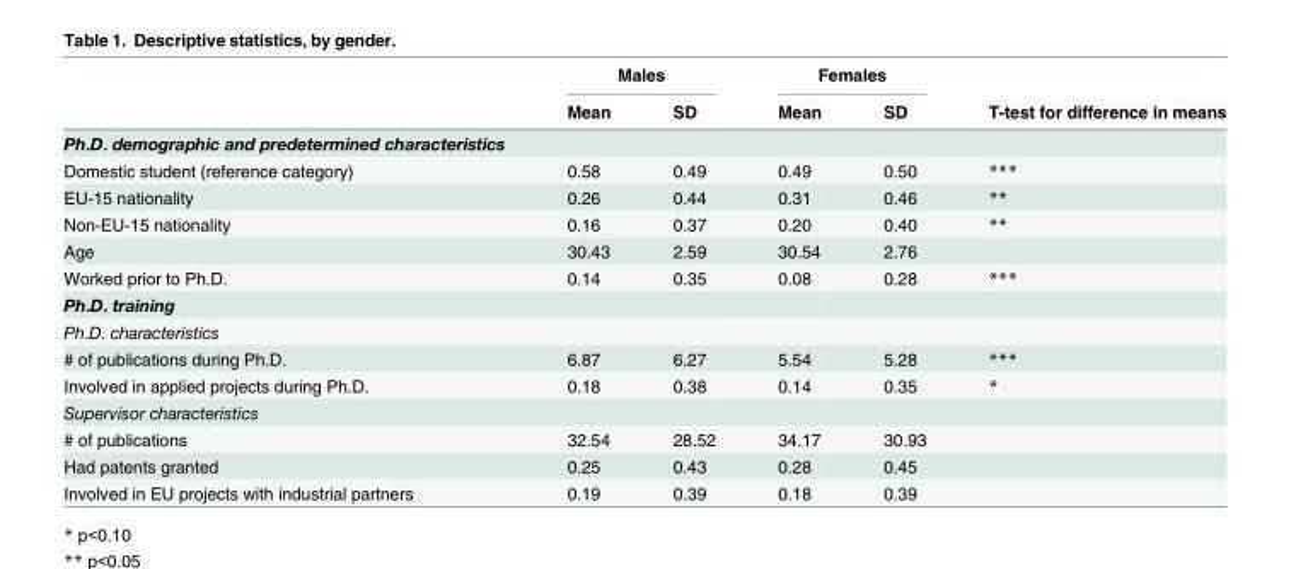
<table><thead><tr><td rowspan="2"></td><td colspan="2">Males</td><td colspan="2">Females</td><td rowspan="2">T-test for difference in means</td></tr><tr><td>Mean</td><td>SD</td><td>Mean</td><td>SD</td></tr></thead><tbody><tr><td colspan="6">Ph.D. demographic and predetermined characteristics</td></tr><tr><td>Domestic student (reference category)</td><td>0.58</td><td>0.49</td><td>0.49</td><td>0.50</td><td>***</td></tr><tr><td>EU-15 nationality</td><td>0.26</td><td>0.44</td><td>0.31</td><td>0.46</td><td>**</td></tr><tr><td>Non-EU-15 nationality</td><td>0.16</td><td>0.37</td><td>0.20</td><td>0.40</td><td>**</td></tr><tr><td>Age</td><td>30.43</td><td>2.59</td><td>30.54</td><td>2.76</td><td></td></tr><tr><td>Worked prior to Ph.D.</td><td>0.14</td><td>0.35</td><td>0.08</td><td>0.28</td><td>***</td></tr><tr><td colspan="6">Ph.D. training</td></tr><tr><td colspan="6">Ph.D. characteristics</td></tr><tr><td># of publications during Ph.D.</td><td>6.87</td><td>6.27</td><td>5.54</td><td>5.28</td><td>***</td></tr><tr><td>Involved in applied projects during Ph.D.</td><td>0.18</td><td>0.38</td><td>0.14</td><td>0.35</td><td>*</td></tr><tr><td colspan="6">Supervisor characteristics</td></tr><tr><td># of publications</td><td>32.54</td><td>28.52</td><td>34.17</td><td>30.93</td><td></td></tr><tr><td>Had patents granted</td><td>0.25</td><td>0.43</td><td>0.28</td><td>0.45</td><td></td></tr><tr><td>Involved in EU projects with industrial partners</td><td>0.19</td><td>0.39</td><td>0.18</td><td>0.39</td><td></td></tr></tbody></table>